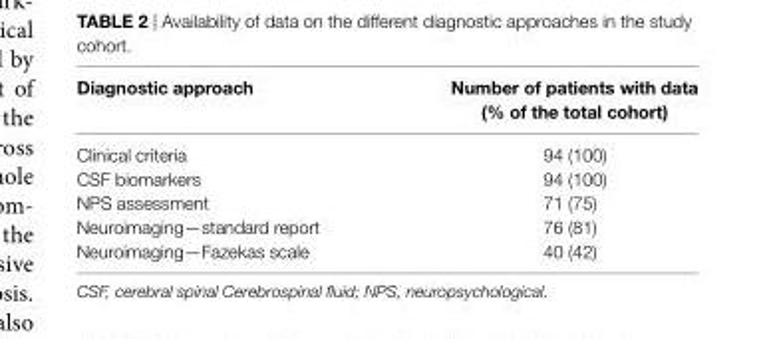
<table><thead><tr><td>Diagnostic approach</td><td>number of patients with data (% of the total cohort)</td></tr></thead><tbody><tr><td>Clinical criteria</td><td>94 (100)</td></tr><tr><td>CSF biomarkers</td><td>94 (100)</td></tr><tr><td>NPS assessment</td><td>71 (75)</td></tr><tr><td>Neuroimaging—standard report</td><td>76 (81)</td></tr><tr><td>Neuroimaging—Fazekas scale</td><td>40 (42)</td></tr></tbody></table>